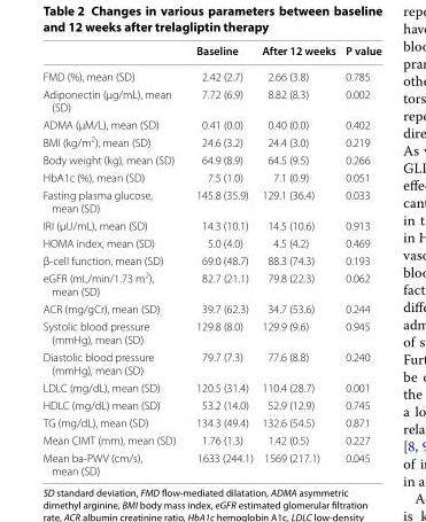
<table><thead><tr><td></td><td>Baseline</td><td>After 12 weeks</td><td>P value</td></tr></thead><tbody><tr><td>FMD (%), mean (SD)</td><td>2.42 (2.7)</td><td>2.66 (3.8)</td><td>0.785</td></tr><tr><td>Adiponectin (μg/mL), mean (SD)</td><td>7.72 (6.9)</td><td>8.82 (8.3)</td><td>0.002</td></tr><tr><td>ADMA (μM/L), mean (SD)</td><td>0.41 (0.0)</td><td>0.40 (0.0)</td><td>0.402</td></tr><tr><td>BMI (kg/m<sup>2</sup>), mean (SD)</td><td>24.6 (3.2)</td><td>24.4 (3.0)</td><td>0.219</td></tr><tr><td>Body weight (kg), mean (SD)</td><td>64.9 (8.9)</td><td>64.5 (9.5)</td><td>0.266</td></tr><tr><td>HbA1c (%), mean (SD)</td><td>7.5 (1.0)</td><td>7.1 (0.9)</td><td>0.051</td></tr><tr><td>Fasting plasma glucose, mean (SD)</td><td>145.8 (35.9)</td><td>129.1 (36.4)</td><td>0.033</td></tr><tr><td>IRI (μU/mL), mean (SD)</td><td>14.3 (10.1)</td><td>14.5 (10.6)</td><td>0.913</td></tr><tr><td>HOMA index, mean (SD)</td><td>5.0 (4.0)</td><td>4.5 (4.2)</td><td>0.469</td></tr><tr><td>β-cell function, mean (SD)</td><td>69.0 (48.7)</td><td>88.3 (74.3)</td><td>0.193</td></tr><tr><td>eGFR (mL/min/1.73 m<sup>2</sup>), mean (SD)</td><td>82.7 (21.1)</td><td>79.8 (22.3)</td><td>0.062</td></tr><tr><td>ACR (mg/gCr), mean (SD)</td><td>39.7 (62.3)</td><td>34.7 (53.6)</td><td>0.244</td></tr><tr><td>Systolic blood pressure (mmHg), mean (SD)</td><td>129.8 (8.0)</td><td>129.9 (9.6)</td><td>0.945</td></tr><tr><td>Diastolic blood pressure (mmHg), mean (SD)</td><td>79.7 (7.3)</td><td>77.6 (8.8)</td><td>0.240</td></tr><tr><td>LDLC (mg/dL), mean (SD)</td><td>120.5 (31.4)</td><td>110.4 (28.7)</td><td>0.001</td></tr><tr><td>HDLC (mg/dL) mean (SD)</td><td>53.2 (14.0)</td><td>52.9 (12.9)</td><td>0.745</td></tr><tr><td>TG (mg/dL), mean (SD)</td><td>134.3 (49.4)</td><td>132.6 (54.5)</td><td>0.871</td></tr><tr><td>Mean CIMT (mm), mean (SD)</td><td>1.76 (1.3)</td><td>1.42 (0.5)</td><td>0.227</td></tr><tr><td>Mean ba-PWV (cm/s), mean (SD)</td><td>1633 (244.1)</td><td>1569 (217.1)</td><td>0.045</td></tr></tbody></table>